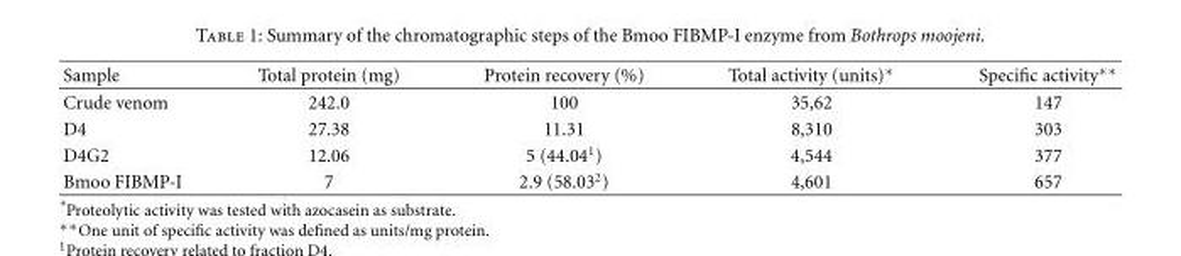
<table><thead><tr><td>Sample</td><td>Total protein (mg)</td><td>Protein recovery (%)</td><td>Total activity (units)∗</td><td>Specific activity∗∗</td></tr></thead><tbody><tr><td>Crude venom</td><td>242.0</td><td>100</td><td>35,62</td><td>147</td></tr><tr><td>D4</td><td>27.38</td><td>11.31</td><td>8,310</td><td>303</td></tr><tr><td>D4G2</td><td>12.06</td><td>5 (44.04<sup>1</sup>)</td><td>4,544</td><td>377</td></tr><tr><td>Bmoo FIBMP-I</td><td>7</td><td>2.9 (58.03<sup>2</sup>)</td><td>4,601</td><td>657</td></tr></tbody></table>